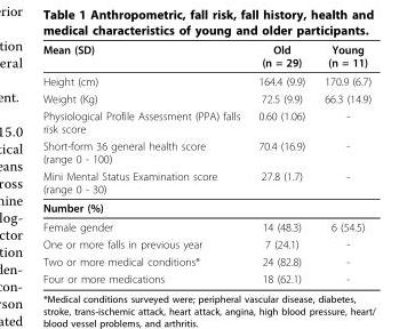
<table><thead><tr><td>Mean (SD)</td><td>Old (n = 29)</td><td>Young (n = 11)</td></tr></thead><tbody><tr><td>Height (cm)</td><td>164.4 (9.9)</td><td>170.9 (6.7)</td></tr><tr><td>Weight (Kg)</td><td>72.5 (9.9)</td><td>66.3 (14.9)</td></tr><tr><td>Physiological Profile Assessment (PPA) falls risk score</td><td>0.60 (1.06)</td><td>-</td></tr><tr><td>Short-form 36 general health score (range 0 - 100)</td><td>70.4 (16.9)</td><td>-</td></tr><tr><td>Mini Mental Status Examination score (range 0 - 30)</td><td>27.8 (1.7)</td><td>-</td></tr><tr><td colspan="3">Number (%)</td></tr><tr><td>Female gender</td><td>14 (48.3)</td><td>6 (54.5)</td></tr><tr><td>One or more falls in previous year</td><td>7 (24.1)</td><td>-</td></tr><tr><td>Two or more medical conditions*</td><td>24 (82.8)</td><td>-</td></tr><tr><td>Four or more medications</td><td>18 (62.1)</td><td>-</td></tr></tbody></table>